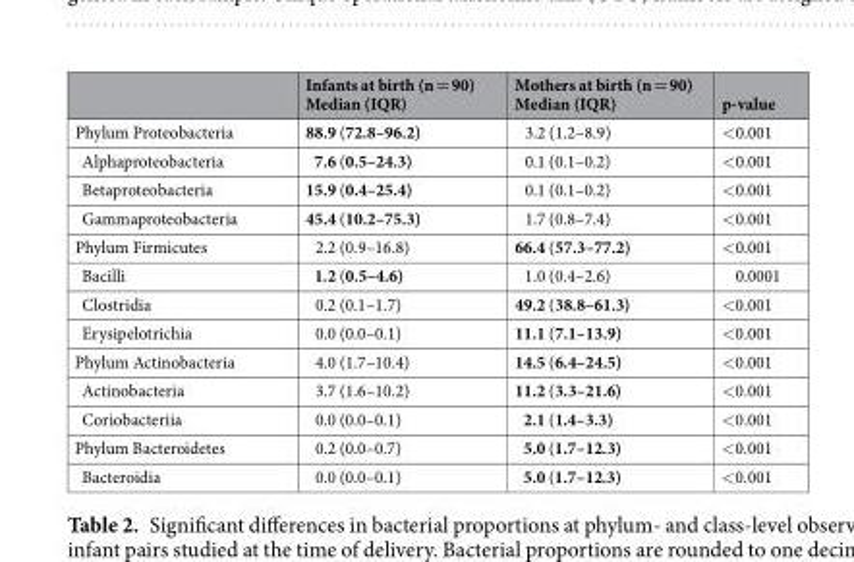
<table><thead><tr><td></td><td>Infants at birth (n = 90) Median (IQR)</td><td>Mothers at birth (n = 90) Median (IQR)</td><td>p-value</td></tr></thead><tbody><tr><td>Phylum Proteobacteria</td><td>88.9 (72.8–96.2)</td><td>3.2 (1.2–8.9)</td><td>&lt;0.001</td></tr><tr><td>Alphaproteobacteria</td><td>7.6 (0.5–24.3)</td><td>0.1 (0.1–0.2)</td><td>&lt;0.001</td></tr><tr><td>Betaproteobacteria</td><td>15.9 (0.4–25.4)</td><td>0.1 (0.1–0.2)</td><td>&lt;0.001</td></tr><tr><td>Gammaproteobacteria</td><td>45.4 (10.2–75.3)</td><td>1.7 (0.8–7.4)</td><td>&lt;0.001</td></tr><tr><td>Phylum Firmicutes</td><td>2.2 (0.9–16.8)</td><td>66.4 (57.3–77.2)</td><td>&lt;0.001</td></tr><tr><td>Bacilli</td><td>1.2 (0.5–4.6)</td><td>1.0 (0.4–2.6)</td><td>0.0001</td></tr><tr><td>Clostridia</td><td>0.2 (0.1–1.7)</td><td>49.2 (38.8–61.3)</td><td>&lt;0.001</td></tr><tr><td>Erysipelotrichia</td><td>0.0 (0.0–0.1)</td><td>11.1 (7.1–13.9)</td><td>&lt;0.001</td></tr><tr><td>Phylum Actinobacteria</td><td>4.0 (1.7–10.4)</td><td>14.5 (6.4–24.5)</td><td>&lt;0.001</td></tr><tr><td>Actinobacteria</td><td>3.7 (1.6–10.2)</td><td>11.2 (3.3–21.6)</td><td>&lt;0.001</td></tr><tr><td>Coriobacteriia</td><td>0.0 (0.0–0.1)</td><td>2.1 (1.4–3.3)</td><td>&lt;0.001</td></tr><tr><td>Phylum Bacteroidetes</td><td>0.2 (0.0–0.7)</td><td>5.0 (1.7–12.3)</td><td>&lt;0.001</td></tr><tr><td>Bacteroidia</td><td>0.0 (0.0–0.1)</td><td>5.0 (1.7–12.3)</td><td>&lt;0.001</td></tr></tbody></table>